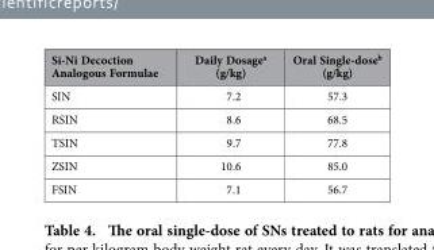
<table><thead><tr><td>Si-Ni Decoction Analogous Formulae</td><td>Daily Dosage<sup>a</sup> (g/kg)</td><td>Oral Single-dose<sup>b</sup> (g/kg)</td></tr></thead><tbody><tr><td>SIN</td><td>7.2</td><td>57.3</td></tr><tr><td>RSIN</td><td>8.6</td><td>68.5</td></tr><tr><td>TSIN</td><td>9.7</td><td>77.8</td></tr><tr><td>ZSIN</td><td>10.6</td><td>85.0</td></tr><tr><td>FSIN</td><td>7.1</td><td>56.7</td></tr></tbody></table>